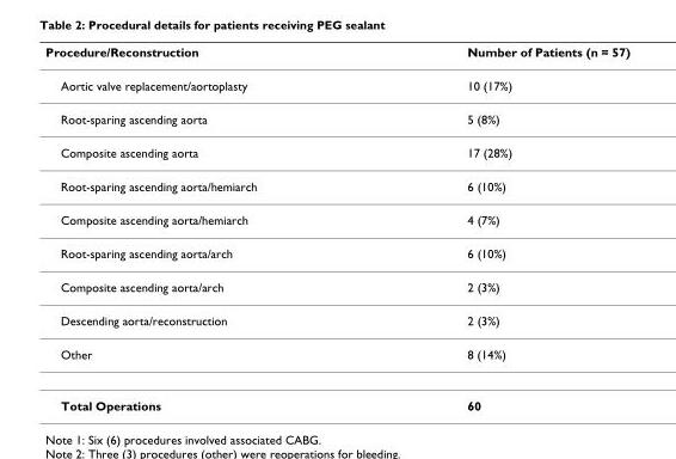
<table><thead><tr><td>Procedure/Reconstruction</td><td>Number of Patients (n = 57)</td></tr></thead><tbody><tr><td>Aortic valve replacement/aortoplasty</td><td>10 (17%)</td></tr><tr><td>Root-sparing ascending aorta</td><td>5 (8%)</td></tr><tr><td>Composite ascending aorta</td><td>17 (28%)</td></tr><tr><td>Root-sparing ascending aorta/hemiarch</td><td>6 (10%)</td></tr><tr><td>Composite ascending aorta/hemiarch</td><td>4 (7%)</td></tr><tr><td>Root-sparing ascending aorta/arch</td><td>6 (10%)</td></tr><tr><td>Composite ascending aorta/arch</td><td>2 (3%)</td></tr><tr><td>Descending aorta/reconstruction</td><td>2 (3%)</td></tr><tr><td>Other</td><td>8 (14%)</td></tr><tr><td>Total Operations</td><td>60</td></tr></tbody></table>